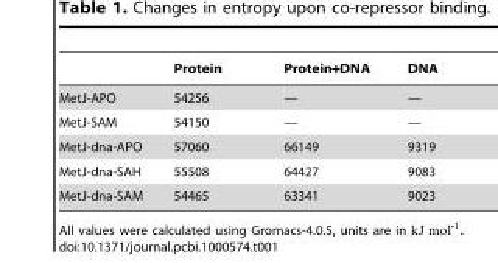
<table><thead><tr><td></td><td>Protein</td><td>Protein+DNA</td><td>DNA</td></tr></thead><tbody><tr><td>MetJ-APO</td><td>54256</td><td>—</td><td>—</td></tr><tr><td>MetJ-SAM</td><td>54150</td><td>—</td><td>—</td></tr><tr><td>MetJ-dna-APO</td><td>57060</td><td>66149</td><td>9319</td></tr><tr><td>MetJ-dna-SAH</td><td>55508</td><td>64427</td><td>9083</td></tr><tr><td>MetJ-dna-SAM</td><td>54465</td><td>63341</td><td>9023</td></tr></tbody></table>